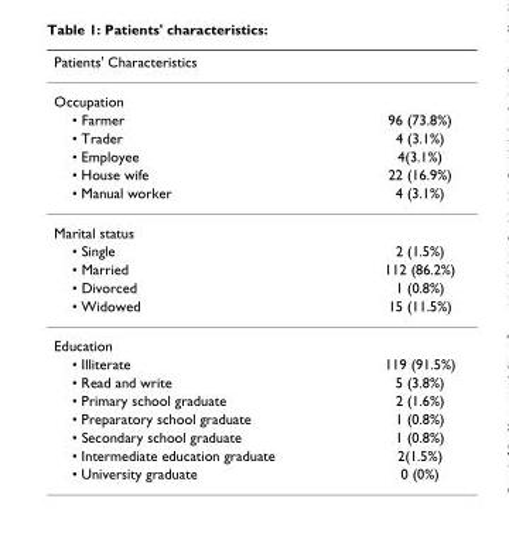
<table><thead><tr><td>Patients&#x27; Characteristics</td><td></td></tr></thead><tbody><tr><td colspan="2">Occupation</td></tr><tr><td>• Farmer</td><td>96 (73.8%)</td></tr><tr><td>• Trader</td><td>4 (3.1%)</td></tr><tr><td>• Employee</td><td>4(3.1%)</td></tr><tr><td>• House wife</td><td>22 (16.9%)</td></tr><tr><td>• Manual worker</td><td>4 (3.1%)</td></tr><tr><td colspan="2">Marital status</td></tr><tr><td>• Single</td><td>2 (1.5%)</td></tr><tr><td>• Married</td><td>112 (86.2%)</td></tr><tr><td>• Divorced</td><td>1 (0.8%)</td></tr><tr><td>• Widowed</td><td>15 (11.5%)</td></tr><tr><td colspan="2">Education</td></tr><tr><td>• Illiterate</td><td>119 (91.5%)</td></tr><tr><td>• Read and write</td><td>5 (3.8%)</td></tr><tr><td>• Primary school graduate</td><td>2 (1.6%)</td></tr><tr><td>• Preparatory school graduate</td><td>1 (0.8%)</td></tr><tr><td>• Secondary school graduate</td><td>1 (0.8%)</td></tr><tr><td>• Intermediate education graduate</td><td>2(1.5%)</td></tr><tr><td>• University graduate</td><td>0 (0%)</td></tr></tbody></table>